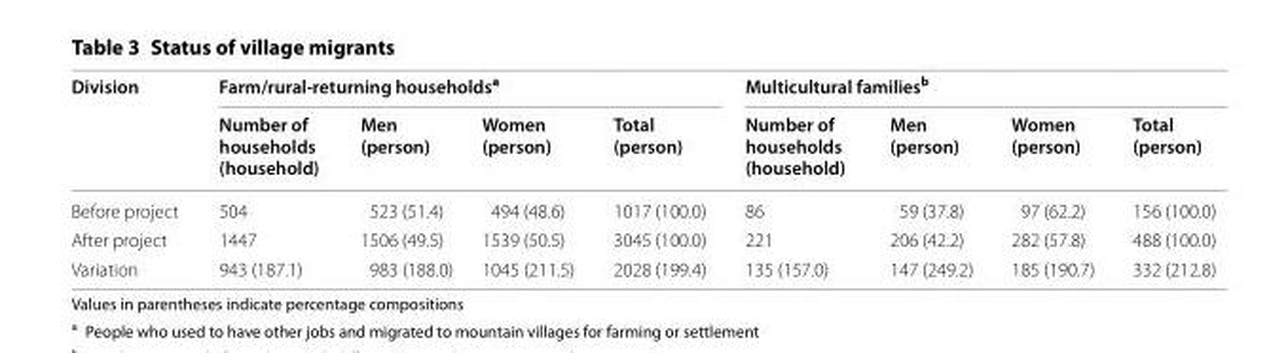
<table><thead><tr><td rowspan="2">Division</td><td colspan="4">Farm/rural-returning households<sup>a</sup></td><td colspan="4">Multicultural families<sup>b</sup></td></tr><tr><td>Number of households (household)</td><td>Men (person)</td><td>Women (person)</td><td>Total (person)</td><td>Number of households (household)</td><td>Men (person)</td><td>Women (person)</td><td>Total (person)</td></tr></thead><tbody><tr><td>Before project</td><td>504</td><td>523 (51.4)</td><td>494 (48.6)</td><td>1017 (100.0)</td><td>86</td><td>59 (37.8)</td><td>97 (62.2)</td><td>156 (100.0)</td></tr><tr><td>After project</td><td>1447</td><td>1506 (49.5)</td><td>1539 (50.5)</td><td>3045 (100.0)</td><td>221</td><td>206 (42.2)</td><td>282 (57.8)</td><td>488 (100.0)</td></tr><tr><td>Variation</td><td>943 (187.1)</td><td>983 (188.0)</td><td>1045 (211.5)</td><td>2028 (199.4)</td><td>135 (157.0)</td><td>147 (249.2)</td><td>185 (190.7)</td><td>332 (212.8)</td></tr></tbody></table>